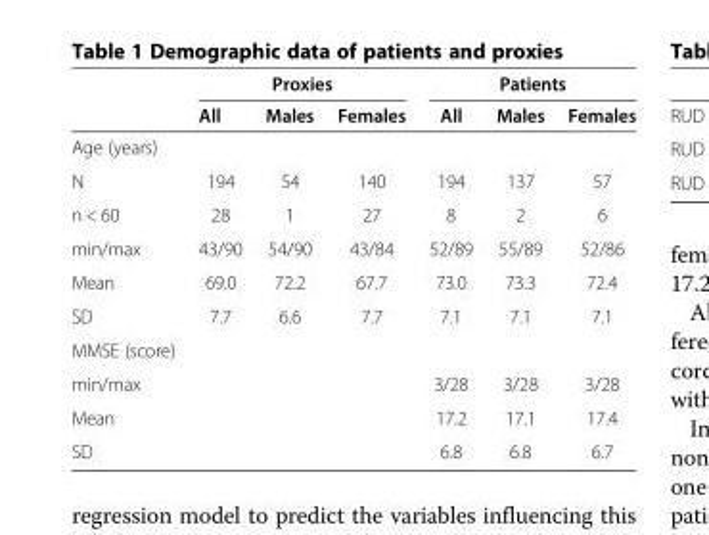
<table><thead><tr><td rowspan="2"></td><td colspan="3">Proxies</td><td colspan="3">Patients</td></tr><tr><td>All</td><td>Males</td><td>Females</td><td>All</td><td>Males</td><td>Females</td></tr></thead><tbody><tr><td colspan="7">Age (years)</td></tr><tr><td>N</td><td>194</td><td>54</td><td>140</td><td>194</td><td>137</td><td>57</td></tr><tr><td>n &lt; 60</td><td>28</td><td>1</td><td>27</td><td>8</td><td>2</td><td>6</td></tr><tr><td>min/max</td><td>43/90</td><td>54/90</td><td>43/84</td><td>52/89</td><td>55/89</td><td>52/86</td></tr><tr><td>Mean</td><td>69.0</td><td>72.2</td><td>67.7</td><td>73.0</td><td>73.3</td><td>72.4</td></tr><tr><td>SD</td><td>7.7</td><td>6.6</td><td>7.7</td><td>7.1</td><td>7.1</td><td>7.1</td></tr><tr><td colspan="7">MMSE (score)</td></tr><tr><td>min/max</td><td></td><td></td><td></td><td>3/28</td><td>3/28</td><td>3/28</td></tr><tr><td>Mean</td><td></td><td></td><td></td><td>17.2</td><td>17.1</td><td>17.4</td></tr><tr><td>SD</td><td></td><td></td><td></td><td>6.8</td><td>6.8</td><td>6.7</td></tr></tbody></table>